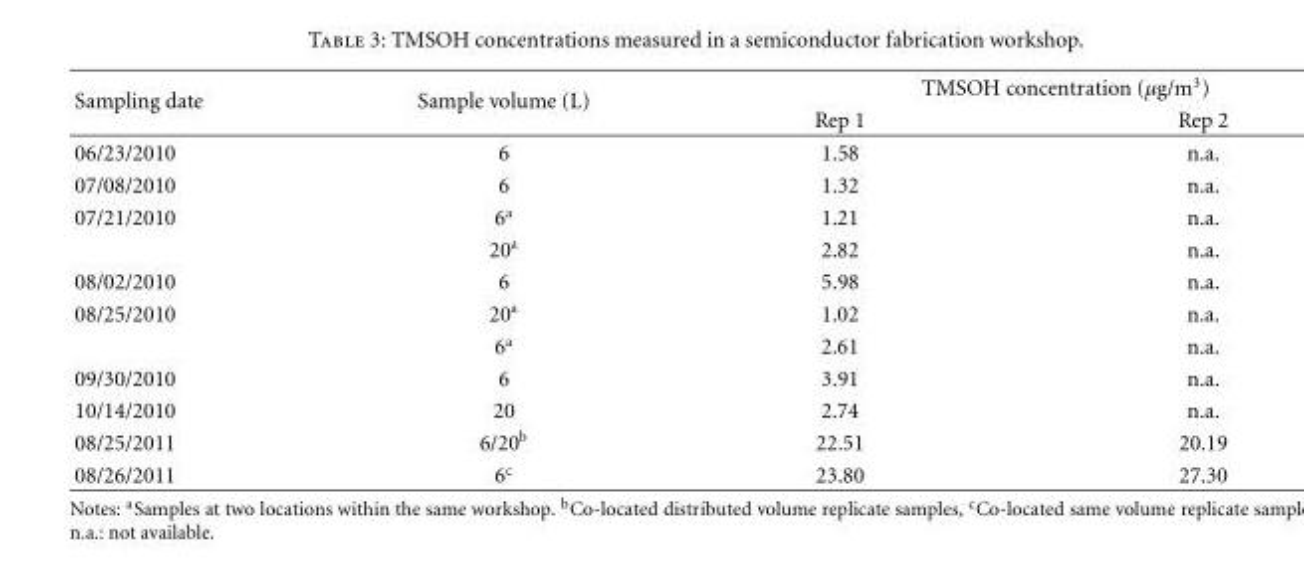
<table><thead><tr><td rowspan="2">Sampling date</td><td rowspan="2">Sample volume (L)</td><td colspan="2">TMSOH concentration (μg/m<sup>3</sup>)</td></tr><tr><td>Rep 1</td><td>Rep 2</td></tr></thead><tbody><tr><td>06/23/2010</td><td>6</td><td>1.58</td><td>n.a.</td></tr><tr><td>07/08/2010</td><td>6</td><td>1.32</td><td>n.a.</td></tr><tr><td rowspan="2">07/21/2010</td><td>6<sup>a</sup></td><td>1.21</td><td>n.a.</td></tr><tr><td>20<sup>a</sup></td><td>2.82</td><td>n.a.</td></tr><tr><td>08/02/2010</td><td>6</td><td>5.98</td><td>n.a.</td></tr><tr><td rowspan="2">08/25/2010</td><td>20<sup>a</sup></td><td>1.02</td><td>n.a.</td></tr><tr><td>6<sup>a</sup></td><td>2.61</td><td>n.a.</td></tr><tr><td>09/30/2010</td><td>6</td><td>3.91</td><td>n.a.</td></tr><tr><td>10/14/2010</td><td>20</td><td>2.74</td><td>n.a.</td></tr><tr><td>08/25/2011</td><td>6/20<sup>b</sup></td><td>22.51</td><td>20.19</td></tr><tr><td>08/26/2011</td><td>6<sup>c</sup></td><td>23.80</td><td>27.30</td></tr></tbody></table>